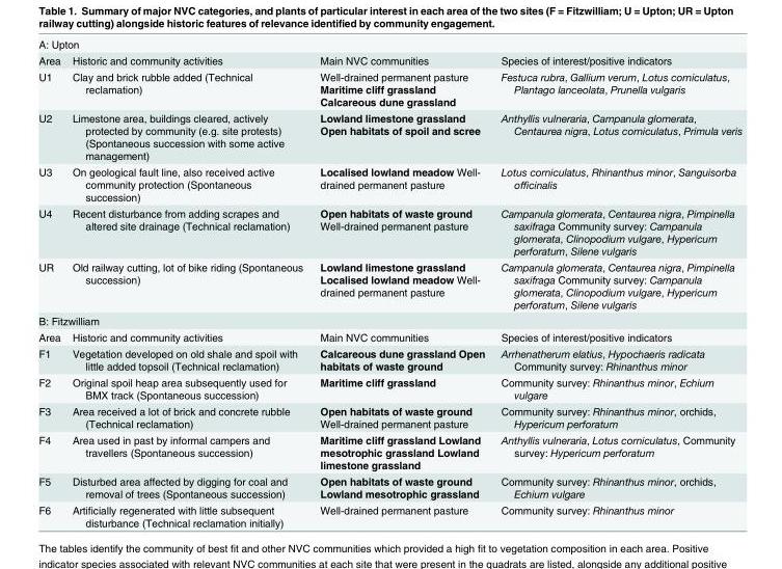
<table><tbody><tr><td colspan="4">A: Upton</td></tr><tr><td>Area</td><td>Historic and community activities</td><td>Main NVC communities</td><td>Species of interest/positive indicators</td></tr><tr><td>U1</td><td>Clay and brick rubble added (Technical reclamation)</td><td>Well-drained permanent pasture Maritime cliff grassland Calcareous dune grassland</td><td>Festuca rubra, Gallium verum, Lotus corniculatus, Plantago lanceolata, Prunella vulgaris</td></tr><tr><td>U2</td><td>Limestone area, buildings cleared, actively protected by community (e.g. site protests) (Spontaneous succession with some active management)</td><td>Lowland limestone grassland Open habitats of spoil and scree</td><td>Anthyllis vulneraria, Campanula glomerata, Centaurea nigra, Lotus corniculatus, Primula veris</td></tr><tr><td>U3</td><td>On geological fault line, also received active community protection (Spontaneous succession)</td><td>Localised lowland meadow Well- drained permanent pasture</td><td>Lotus corniculatus, Rhinanthus minor, Sanguisorba officinalis</td></tr><tr><td>U4</td><td>Recent disturbance from adding scrapes and altered site drainage (Technical reclamation)</td><td>Open habitats of waste ground Well-drained permanent pasture</td><td>Campanula glomerata, Centaurea nigra, Pimpinella saxifraga Community survey: Campanula glomerata, Clinopodium vulgare, Hypericum perforatum, Silene vulgaris</td></tr><tr><td>UR</td><td>Old railway cutting, lot of bike riding (Spontaneous succession)</td><td>Lowland limestone grassland Localised lowland meadow Well- drained permanent pasture</td><td>Campanula glomerata, Centaurea nigra, Pimpinella saxifraga Community survey: Campanula glomerata, Clinopodium vulgare, Hypericum perforatum, Silene vulgaris</td></tr><tr><td colspan="4">B: Fitzwilliam</td></tr><tr><td>Area</td><td>Historic and community activities</td><td>Main NVC communities</td><td>Species of interest/positive indicators</td></tr><tr><td>F1</td><td>Vegetation developed on old shale and spoil with little added topsoil (Technical reclamation)</td><td>Calcareous dune grassland Open habitats of waste ground</td><td>Arrhenatherum elatius, Hypochaeris radicata Community survey: Rhinanthus minor</td></tr><tr><td>F2</td><td>Original spoil heap area subsequently used for BMX track (Spontaneous succession)</td><td>Maritime cliff grassland</td><td>Community survey: Rhinanthus minor, Echium vulgare</td></tr><tr><td>F3</td><td>Area received a lot of brick and concrete rubble (Technical reclamation)</td><td>Open habitats of waste ground Well-drained permanent pasture</td><td>Community survey: Rhinanthus minor, orchids, Hypericum perforatum</td></tr><tr><td>F4</td><td>Area used in past by informal campers and travellers (Spontaneous succession)</td><td>Maritime cliff grassland Lowland mesotrophic grassland Lowland limestone grassland</td><td>Anthyllis vulneraria, Lotus corniculatus, Community survey: Hypericum perforatum</td></tr><tr><td>F5</td><td>Disturbed area affected by digging for coal and removal of trees (Spontaneous succession)</td><td>Open habitats of waste ground Lowland mesotrophic grassland</td><td>Community survey: Rhinanthus minor, orchids, Echium vulgare</td></tr><tr><td>F6</td><td>Artificially regenerated with little subsequent disturbance (Technical reclamation initially)</td><td>Well-drained permanent pasture</td><td>Community survey: Rhinanthus minor</td></tr></tbody></table>